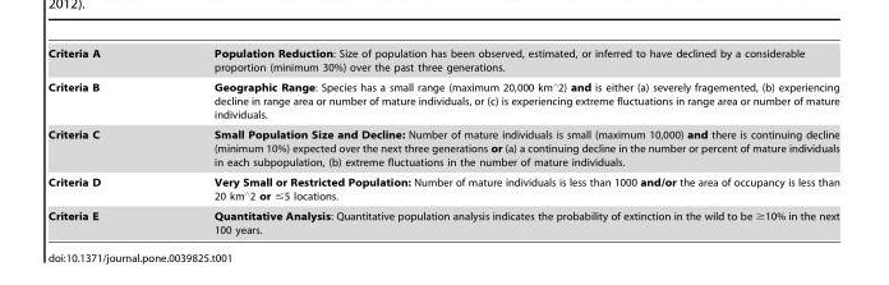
<table><tbody><tr><td>Criteria A</td><td>Population Reduction: Size of population has been observed, estimated, or inferred to have declined by a considerable proportion (minimum 30%) over the past three generations.</td></tr><tr><td>Criteria B</td><td>Geographic Range: Species has a small range (maximum 20,000 km‘2) and is either (a) severely fragemented, (b) experiencing decline in range area or number of mature individuals, or (c) is experiencing extreme fluctuations in range area or number of mature individuals.</td></tr><tr><td>Criteria C</td><td>Small Population Size and Decline: Number of mature individuals is small (maximum 10,000) and there is continuing decline (minimum 10%) expected over the next three generations or (a) a continuing decline in the number or percent of mature individuals in each subpopulation, (b) extreme fluctuations in the number of mature individuals.</td></tr><tr><td>Criteria D</td><td>Very Small or Restricted Population: Number of mature individuals is less than 1000 and/or the area of occupancy is less than 20 km‘2 or #5 locations.</td></tr><tr><td>Criteria E</td><td>Quantitative Analysis: Quantitative population analysis indicates the probability of extinction in the wild to be ≥10% in the next 100 years.</td></tr></tbody></table>